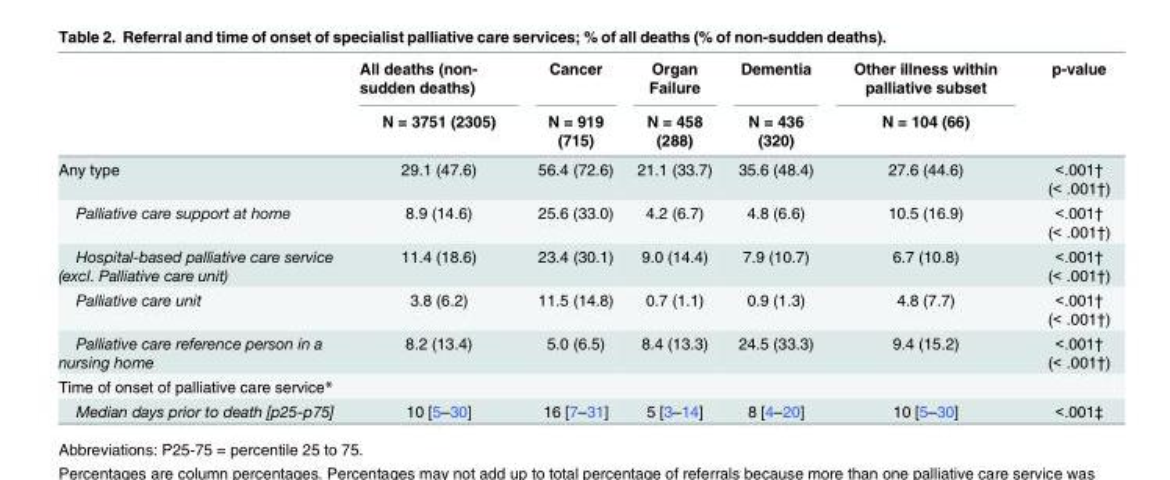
<table><thead><tr><td rowspan="2"></td><td rowspan="2">All deaths (non- sudden deaths) N = 3751 (2305)</td><td rowspan="2">Cancer N = 919 (715)</td><td rowspan="2">Organ Failure N = 458 (288)</td><td rowspan="2">Dementia N = 436 (320)</td><td rowspan="2">Other illness within palliative subset N = 104 (66)</td><td rowspan="2">p-value</td></tr><tr></tr></thead><tbody><tr><td>Any type</td><td>29.1 (47.6)</td><td>56.4 (72.6)</td><td>21.1 (33.7)</td><td>35.6 (48.4)</td><td>27.6 (44.6)</td><td>&lt;.001† (&lt; .001†)</td></tr><tr><td>Palliative care support at home</td><td>8.9 (14.6)</td><td>25.6 (33.0)</td><td>4.2 (6.7)</td><td>4.8 (6.6)</td><td>10.5 (16.9)</td><td>&lt;.001† (&lt; .001†)</td></tr><tr><td>Hospital-based palliative care service (excl. Palliative care unit)</td><td>11.4 (18.6)</td><td>23.4 (30.1)</td><td>9.0 (14.4)</td><td>7.9 (10.7)</td><td>6.7 (10.8)</td><td>&lt;.001† (&lt; .001†)</td></tr><tr><td>Palliative care unit</td><td>3.8 (6.2)</td><td>11.5 (14.8)</td><td>0.7 (1.1)</td><td>0.9 (1.3)</td><td>4.8 (7.7)</td><td>&lt;.001† (&lt; .001†)</td></tr><tr><td>Palliative care reference person in a nursing home</td><td>8.2 (13.4)</td><td>5.0 (6.5)</td><td>8.4 (13.3)</td><td>24.5 (33.3)</td><td>9.4 (15.2)</td><td>&lt;.001† (&lt; .001†)</td></tr><tr><td colspan="7">Time of onset of palliative care service*</td></tr><tr><td>Median days prior to death [p25-p75]</td><td>10 [5–30]</td><td>16 [7–31]</td><td>5 [3–14]</td><td>8 [4–20]</td><td>10 [5–30]</td><td>&lt;.001‡</td></tr></tbody></table>